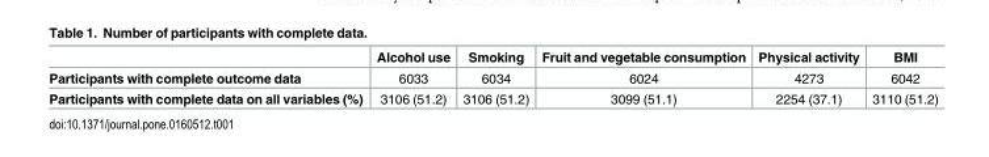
<table><thead><tr><td></td><td>Alcohol use</td><td>Smoking</td><td>Fruit and vegetable consumption</td><td>Physical activity</td><td>BMI</td></tr></thead><tbody><tr><td>Participants with complete outcome data</td><td>6033</td><td>6034</td><td>6024</td><td>4273</td><td>6042</td></tr><tr><td>Participants with complete data on all variables (%)</td><td>3106 (51.2)</td><td>3106 (51.2)</td><td>3099 (51.1)</td><td>2254 (37.1)</td><td>3110 (51.2)</td></tr></tbody></table>